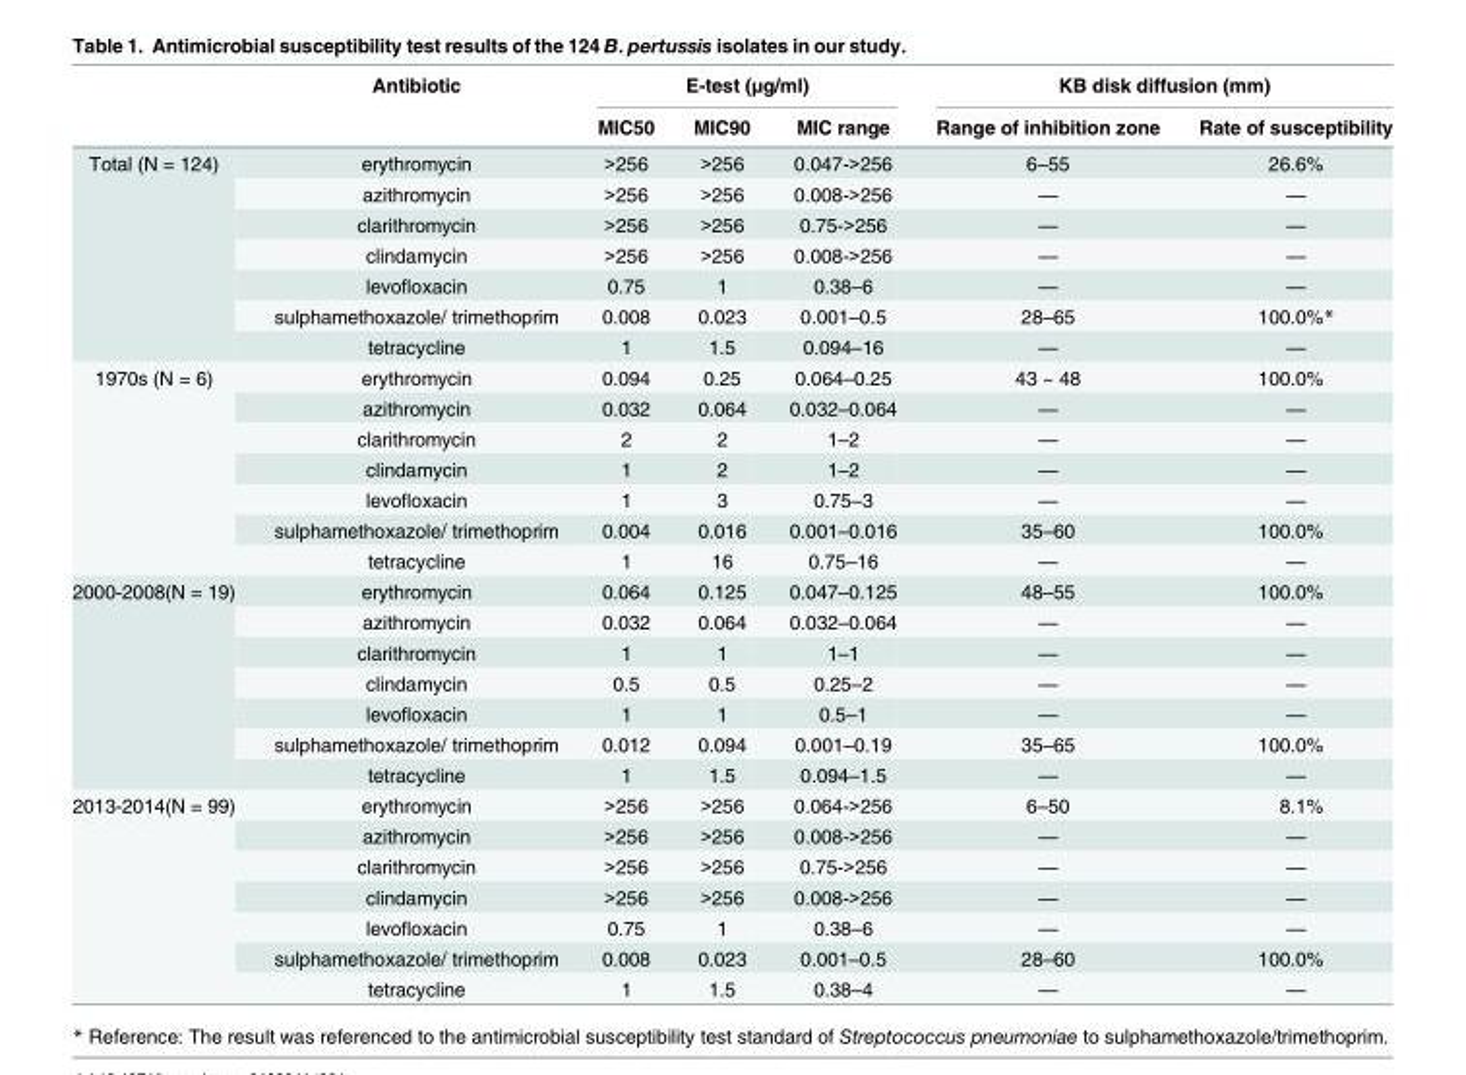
<table><thead><tr><td rowspan="2"></td><td rowspan="2">Antibiotic</td><td colspan="3">E-test (μg/ml)</td><td colspan="2">KB disk diffusion (mm)</td></tr><tr><td>MIC50</td><td>MIC90</td><td>MIC range</td><td>Range of inhibition zone</td><td>Rate of susceptibility</td></tr></thead><tbody><tr><td rowspan="7">Total (N = 124)</td><td>erythromycin</td><td>&gt;256</td><td>&gt;256</td><td>0.047-&gt;256</td><td>6–55</td><td>26.6%</td></tr><tr><td>azithromycin</td><td>&gt;256</td><td>&gt;256</td><td>0.008-&gt;256</td><td>—</td><td>—</td></tr><tr><td>clarithromycin</td><td>&gt;256</td><td>&gt;256</td><td>0.75-&gt;256</td><td>—</td><td>—</td></tr><tr><td>clindamycin</td><td>&gt;256</td><td>&gt;256</td><td>0.008-&gt;256</td><td>—</td><td>—</td></tr><tr><td>levofloxacin</td><td>0.75</td><td>1</td><td>0.38–6</td><td>—</td><td>—</td></tr><tr><td>sulphamethoxazole/ trimethoprim</td><td>0.008</td><td>0.023</td><td>0.001–0.5</td><td>28–65</td><td>100.0%*</td></tr><tr><td>tetracycline</td><td>1</td><td>1.5</td><td>0.094–16</td><td>—</td><td>—</td></tr><tr><td rowspan="7">1970s (N = 6)</td><td>erythromycin</td><td>0.094</td><td>0.25</td><td>0.064–0.25</td><td>43 ~ 48</td><td>100.0%</td></tr><tr><td>azithromycin</td><td>0.032</td><td>0.064</td><td>0.032–0.064</td><td>—</td><td>—</td></tr><tr><td>clarithromycin</td><td>2</td><td>2</td><td>1–2</td><td>—</td><td>—</td></tr><tr><td>clindamycin</td><td>1</td><td>2</td><td>1–2</td><td>—</td><td>—</td></tr><tr><td>levofloxacin</td><td>1</td><td>3</td><td>0.75–3</td><td>—</td><td>—</td></tr><tr><td>sulphamethoxazole/ trimethoprim</td><td>0.004</td><td>0.016</td><td>0.001–0.016</td><td>35–60</td><td>100.0%</td></tr><tr><td>tetracycline</td><td>1</td><td>16</td><td>0.75–16</td><td>—</td><td>—</td></tr><tr><td rowspan="7">2000-2008(N = 19)</td><td>erythromycin</td><td>0.064</td><td>0.125</td><td>0.047–0.125</td><td>48–55</td><td>100.0%</td></tr><tr><td>azithromycin</td><td>0.032</td><td>0.064</td><td>0.032–0.064</td><td>—</td><td>—</td></tr><tr><td>clarithromycin</td><td>1</td><td>1</td><td>1–1</td><td>—</td><td>—</td></tr><tr><td>clindamycin</td><td>0.5</td><td>0.5</td><td>0.25–2</td><td>—</td><td>—</td></tr><tr><td>levofloxacin</td><td>1</td><td>1</td><td>0.5–1</td><td>—</td><td>—</td></tr><tr><td>sulphamethoxazole/ trimethoprim</td><td>0.012</td><td>0.094</td><td>0.001–0.19</td><td>35–65</td><td>100.0%</td></tr><tr><td>tetracycline</td><td>1</td><td>1.5</td><td>0.094–1.5</td><td>—</td><td>—</td></tr><tr><td rowspan="7">2013-2014(N = 99)</td><td>erythromycin</td><td>&gt;256</td><td>&gt;256</td><td>0.064-&gt;256</td><td>6–50</td><td>8.1%</td></tr><tr><td>azithromycin</td><td>&gt;256</td><td>&gt;256</td><td>0.008-&gt;256</td><td>—</td><td>—</td></tr><tr><td>clarithromycin</td><td>&gt;256</td><td>&gt;256</td><td>0.75-&gt;256</td><td>—</td><td>—</td></tr><tr><td>clindamycin</td><td>&gt;256</td><td>&gt;256</td><td>0.008-&gt;256</td><td>—</td><td>—</td></tr><tr><td>levofloxacin</td><td>0.75</td><td>1</td><td>0.38–6</td><td>—</td><td>—</td></tr><tr><td>sulphamethoxazole/ trimethoprim</td><td>0.008</td><td>0.023</td><td>0.001–0.5</td><td>28–60</td><td>100.0%</td></tr><tr><td>tetracycline</td><td>1</td><td>1.5</td><td>0.38–4</td><td>—</td><td>—</td></tr></tbody></table>